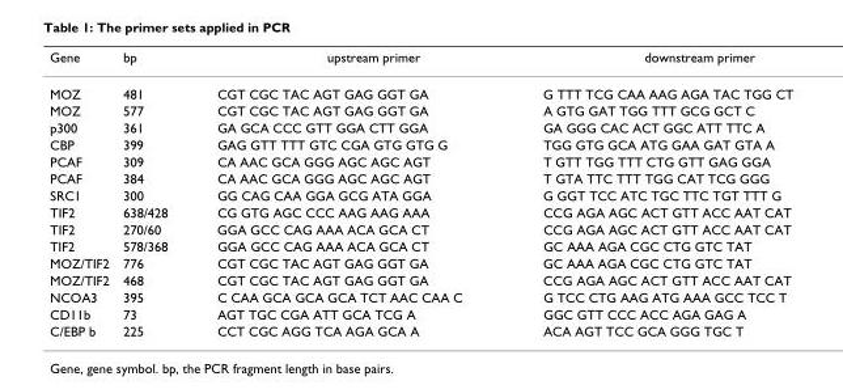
<table><thead><tr><td>Gene</td><td>bp</td><td>upstream primer</td><td>downstream primer</td></tr></thead><tbody><tr><td>MOZ</td><td>481</td><td>CGT CGC TAC AGT GAG GGT GA</td><td>G TTT TCG CAA AAG AGA TAC TGG CT</td></tr><tr><td>MOZ</td><td>577</td><td>CGT CGC TAC AGT GAG GGT GA</td><td>A GTG GAT TGG TTT GCG GCT C</td></tr><tr><td>p300</td><td>361</td><td>GA GCA CCC GTT GGA CTT GGA</td><td>GA GGG CAC ACT GGC ATT TTC A</td></tr><tr><td>CBP</td><td>399</td><td>GAG GTT TTT GTC CGA GTG GTG G</td><td>TGG GTG GCA ATG GAA GAT GTA A</td></tr><tr><td>PCAF</td><td>309</td><td>CA AAC GCA GGG AGC AGC AGT</td><td>T GTT TGG TTT CTG GTT GAG GGA</td></tr><tr><td>PCAF</td><td>384</td><td>CA AAC GCA GGG AGC AGC AGT</td><td>T GTA TTC TTT TGG CAT TCG GGG</td></tr><tr><td>SRC1</td><td>300</td><td>GG CAG CAA GGA GCG ATA GGA</td><td>G GGT TCC ATC TGC TTC TGT TTT G</td></tr><tr><td>TIF2</td><td>638/428</td><td>CG GTG AGC CCC AAG AAG AAA</td><td>CCG AGA AGC ACT GTT ACC AAT CAT</td></tr><tr><td>TIF2</td><td>270/60</td><td>GGA GCC CAG AAA ACA GCA CT</td><td>CCG AGA AGC ACT GTT ACC AAT CAT</td></tr><tr><td>TIF2</td><td>578/368</td><td>GGA GCC CAG AAA ACA GCA CT</td><td>GC AAA AGA CGC CTG GTC TAT</td></tr><tr><td>MOZ/TIF2</td><td>776</td><td>CGT CGC TAC AGT GAG GGT GA</td><td>GC AAA AGA CGC CTG GTC TAT</td></tr><tr><td>MOZ/TIF2</td><td>468</td><td>CGT CGC TAC AGT GAG GGT GA</td><td>CCG AGA AGC ACT GTT ACC AAT CAT</td></tr><tr><td>NCOA3</td><td>395</td><td>C CAA GCA GCA GCA TCT AAC CAA C</td><td>G TCC CTG AAG ATG AAA GCC TCC T</td></tr><tr><td>CD11b</td><td>73</td><td>AGT TGC CGA ATT GCA TCG A</td><td>GGC GTT CCC ACC AGA GAG A</td></tr><tr><td>C/EBP b</td><td>225</td><td>CCT CGC AGG TCA AGA GCA A</td><td>ACA AGT TCC GCA GGG TGC T</td></tr></tbody></table>